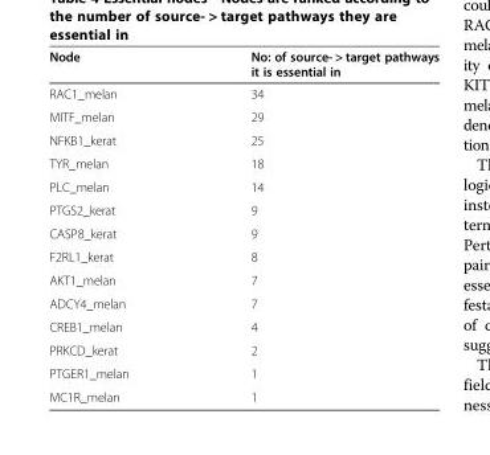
<table><thead><tr><td>Node</td><td>No: of source- &gt; target pathways it is essential in</td></tr></thead><tbody><tr><td>RAC1_melan</td><td>34</td></tr><tr><td>MITF_melan</td><td>29</td></tr><tr><td>NFKB1_kerat</td><td>25</td></tr><tr><td>TYR_melan</td><td>18</td></tr><tr><td>PLC_melan</td><td>14</td></tr><tr><td>PTGS2_kerat</td><td>9</td></tr><tr><td>CASP8_kerat</td><td>9</td></tr><tr><td>F2RL1_kerat</td><td>8</td></tr><tr><td>AKT1_melan</td><td>7</td></tr><tr><td>ADCY4_melan</td><td>7</td></tr><tr><td>CREB1_melan</td><td>4</td></tr><tr><td>PRKCD_kerat</td><td>2</td></tr><tr><td>PTGER1_melan</td><td>1</td></tr><tr><td>MC1R_melan</td><td>1</td></tr></tbody></table>